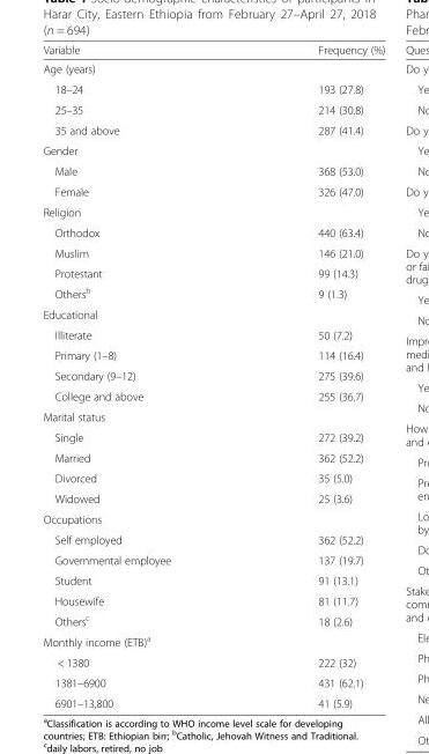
<table><thead><tr><td>Variable</td><td>Frequency (%)</td></tr></thead><tbody><tr><td colspan="2">Age (years)</td></tr><tr><td>18–24</td><td>193 (27.8)</td></tr><tr><td>25–35</td><td>214 (30.8)</td></tr><tr><td>35 and above</td><td>287 (41.4)</td></tr><tr><td colspan="2">Gender</td></tr><tr><td>Male</td><td>368 (53.0)</td></tr><tr><td>Female</td><td>326 (47.0)</td></tr><tr><td colspan="2">Religion</td></tr><tr><td>Orthodox</td><td>440 (63.4)</td></tr><tr><td>Muslim</td><td>146 (21.0)</td></tr><tr><td>Protestant</td><td>99 (14.3)</td></tr><tr><td>Others<sup>b</sup></td><td>9 (1.3)</td></tr><tr><td colspan="2">Educational</td></tr><tr><td>Illiterate</td><td>50 (7.2)</td></tr><tr><td>Primary (1–8)</td><td>114 (16.4)</td></tr><tr><td>Secondary (9–12)</td><td>275 (39.6)</td></tr><tr><td>College and above</td><td>255 (36.7)</td></tr><tr><td colspan="2">Marital status</td></tr><tr><td>Single</td><td>272 (39.2)</td></tr><tr><td>Married</td><td>362 (52.2)</td></tr><tr><td>Divorced</td><td>35 (5.0)</td></tr><tr><td>Widowed</td><td>25 (3.6)</td></tr><tr><td colspan="2">Occupations</td></tr><tr><td>Self employed</td><td>362 (52.2)</td></tr><tr><td>Governmental employee</td><td>137 (19.7)</td></tr><tr><td>Student</td><td>91 (13.1)</td></tr><tr><td>Housewife</td><td>81 (11.7)</td></tr><tr><td>Others<sup>c</sup></td><td>18 (2.6)</td></tr><tr><td colspan="2">Monthly income (ETB)<sup>a</sup></td></tr><tr><td>&lt; 1380</td><td>222 (32)</td></tr><tr><td>1381–6900</td><td>431 (62.1)</td></tr><tr><td>6901–13,800</td><td>41 (5.9)</td></tr></tbody></table>